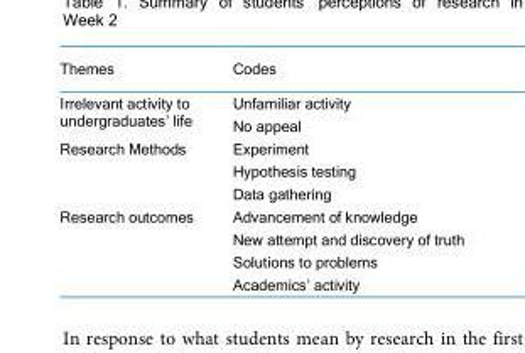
<table><tbody><tr><td>Themes</td><td>Codes</td></tr><tr><td rowspan="2">Irrelevant activity to undergraduates’ life</td><td>Unfamiliar activity</td></tr><tr><td>No appeal</td></tr><tr><td rowspan="3">Research Methods</td><td>Experiment</td></tr><tr><td>Hypothesis testing</td></tr><tr><td>Data gathering</td></tr><tr><td rowspan="4">Research outcomes</td><td>Advancement of knowledge</td></tr><tr><td>New attempt and discovery of truth</td></tr><tr><td>Solutions to problems</td></tr><tr><td>Academics’ activity</td></tr></tbody></table>